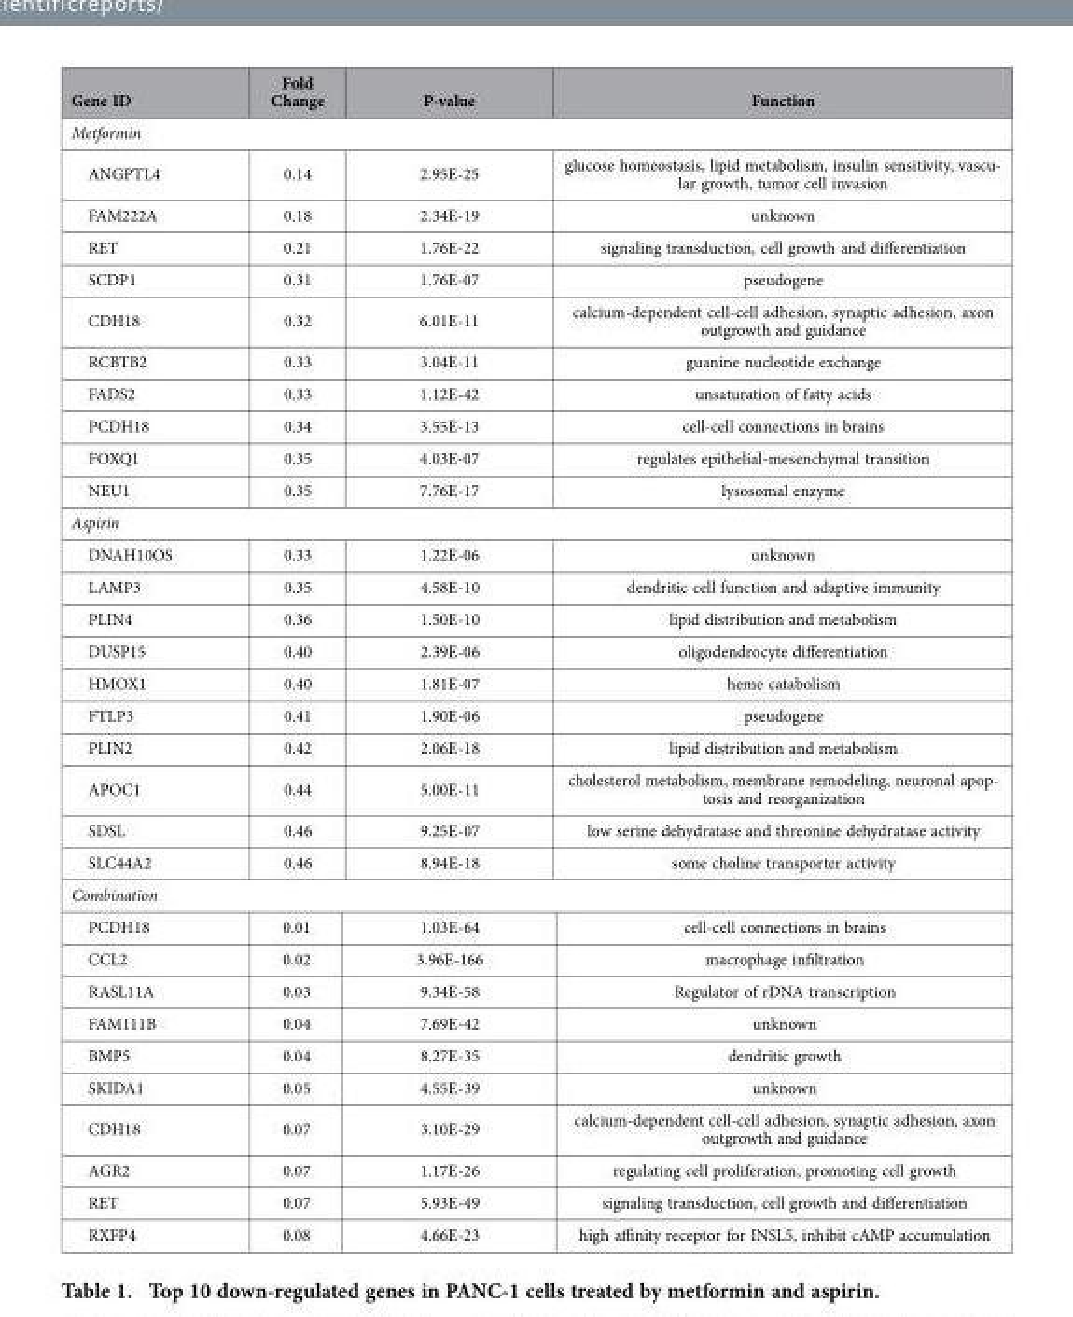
<table><thead><tr><td>Gene ID</td><td>Fold Change</td><td>P-value</td><td>Function</td></tr></thead><tbody><tr><td colspan="4">Metformin</td></tr><tr><td>ANGPTL4</td><td>0.14</td><td>2.95E-25</td><td>glucose homeostasis, lipid metabolism, insulin sensitivity, vascu- lar growth, tumor cell invasion</td></tr><tr><td>FAM222A</td><td>0.18</td><td>2.34E-19</td><td>unknown</td></tr><tr><td>RET</td><td>0.21</td><td>1.76E-22</td><td>signaling transduction, cell growth and differentiation</td></tr><tr><td>SCDP1</td><td>0.31</td><td>1.76E-07</td><td>pseudogene</td></tr><tr><td>CDH18</td><td>0.32</td><td>6.01E-11</td><td>calcium-dependent cell-cell adhesion, synaptic adhesion, axon outgrowth and guidance</td></tr><tr><td>RCBTB2</td><td>0.33</td><td>3.04E-11</td><td>guanine nucleotide exchange</td></tr><tr><td>FADS2</td><td>0.33</td><td>1.12E-42</td><td>unsaturation of fatty acids</td></tr><tr><td>PCDH18</td><td>0.34</td><td>3.55E-13</td><td>cell-cell connections in brains</td></tr><tr><td>FOXQ1</td><td>0.35</td><td>4.03E-07</td><td>regulates epithelial-mesenchymal transition</td></tr><tr><td>NEU1</td><td>0.35</td><td>7.76E-17</td><td>lysosomal enzyme</td></tr><tr><td colspan="4">Aspirin</td></tr><tr><td>DNAH10OS</td><td>0.33</td><td>1.22E-06</td><td>unknown</td></tr><tr><td>LAMP3</td><td>0.35</td><td>4.58E-10</td><td>dendritic cell function and adaptive immunity</td></tr><tr><td>PLIN4</td><td>0.36</td><td>1.50E-10</td><td>lipid distribution and metabolism</td></tr><tr><td>DUSP15</td><td>0.40</td><td>2.39E-06</td><td>oligodendrocyte differentiation</td></tr><tr><td>HMOX1</td><td>0.40</td><td>1.81E-07</td><td>heme catabolism</td></tr><tr><td>FTLP3</td><td>0.41</td><td>1.90E-06</td><td>pseudogene</td></tr><tr><td>PLIN2</td><td>0.42</td><td>2.06E-18</td><td>lipid distribution and metabolism</td></tr><tr><td>APOC1</td><td>0.44</td><td>5.00E-11</td><td>cholesterol metabolism, membrane remodeling, neuronal apop- tosis and reorganization</td></tr><tr><td>SDSL</td><td>0.46</td><td>9.25E-07</td><td>low serine dehydratase and threonine dehydratase activity</td></tr><tr><td>SLC44A2</td><td>0.46</td><td>8.94E-18</td><td>some choline transporter activity</td></tr><tr><td colspan="4">Combination</td></tr><tr><td>PCDH18</td><td>0.01</td><td>1.03E-64</td><td>cell-cell connections in brains</td></tr><tr><td>CCL2</td><td>0.02</td><td>3.96E-166</td><td>macrophage infiltration</td></tr><tr><td>RASL11A</td><td>0.03</td><td>9.34E-58</td><td>Regulator of rDNA transcription</td></tr><tr><td>FAM111B</td><td>0.04</td><td>7.69E-42</td><td>unknown</td></tr><tr><td>BMP5</td><td>0.04</td><td>8.27E-35</td><td>dendritic growth</td></tr><tr><td>SKIDA1</td><td>0.05</td><td>4.55E-39</td><td>unknown</td></tr><tr><td>CDH18</td><td>0.07</td><td>3.10E-29</td><td>calcium-dependent cell-cell adhesion, synaptic adhesion, axon outgrowth and guidance</td></tr><tr><td>AGR2</td><td>0.07</td><td>1.17E-26</td><td>regulating cell proliferation, promoting cell growth</td></tr><tr><td>RET</td><td>0.07</td><td>5.93E-49</td><td>signaling transduction, cell growth and differentiation</td></tr><tr><td>RXFP4</td><td>0.08</td><td>4.66E-23</td><td>high affinity receptor for INSL5, inhibit cAMP accumulation</td></tr></tbody></table>